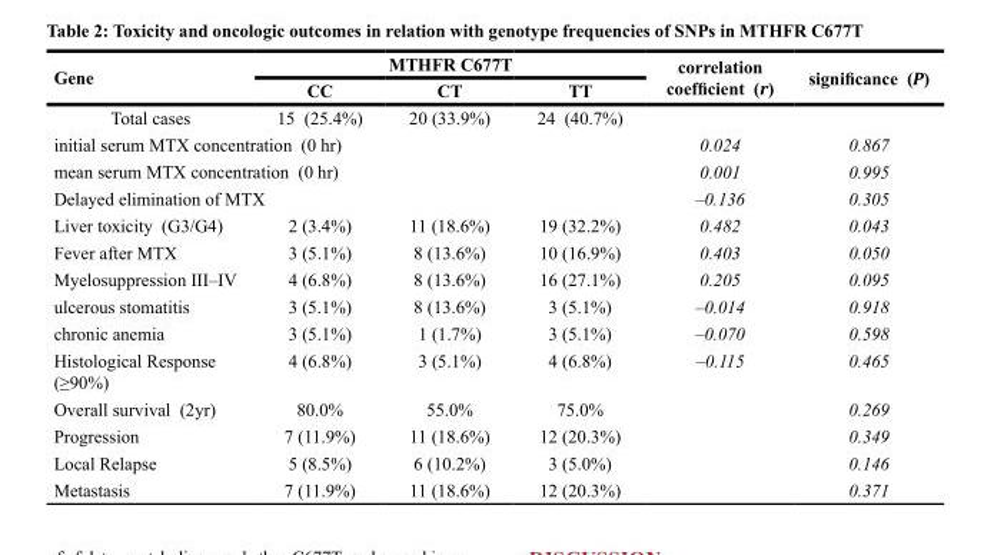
<table><thead><tr><td rowspan="2">Gene</td><td colspan="3">MTHFR C677T</td><td rowspan="2">correlation coefficient (r)</td><td rowspan="2">significance (P)</td></tr><tr><td>CC</td><td>CT</td><td>TT</td></tr></thead><tbody><tr><td>Total cases</td><td>15 (25.4%)</td><td>20 (33.9%)</td><td>24 (40.7%)</td><td></td><td></td></tr><tr><td colspan="4">initial serum MTX concentration (0 hr)</td><td>0.024</td><td>0.867</td></tr><tr><td colspan="4">mean serum MTX concentration (0 hr)</td><td>0.001</td><td>0.995</td></tr><tr><td colspan="4">Delayed elimination of MTX</td><td>–0.136</td><td>0.305</td></tr><tr><td>Liver toxicity (G3/G4)</td><td>2 (3.4%)</td><td>11 (18.6%)</td><td>19 (32.2%)</td><td>0.482</td><td>0.043</td></tr><tr><td>Fever after MTX</td><td>3 (5.1%)</td><td>8 (13.6%)</td><td>10 (16.9%)</td><td>0.403</td><td>0.050</td></tr><tr><td>Myelosuppression III–IV</td><td>4 (6.8%)</td><td>8 (13.6%)</td><td>16 (27.1%)</td><td>0.205</td><td>0.095</td></tr><tr><td>ulcerous stomatitis</td><td>3 (5.1%)</td><td>8 (13.6%)</td><td>3 (5.1%)</td><td>–0.014</td><td>0.918</td></tr><tr><td>chronic anemia</td><td>3 (5.1%)</td><td>1 (1.7%)</td><td>3 (5.1%)</td><td>–0.070</td><td>0.598</td></tr><tr><td>Histological Response (≥90%)</td><td>4 (6.8%)</td><td>3 (5.1%)</td><td>4 (6.8%)</td><td>–0.115</td><td>0.465</td></tr><tr><td>Overall survival (2yr)</td><td>80.0%</td><td>55.0%</td><td>75.0%</td><td></td><td>0.269</td></tr><tr><td>Progression</td><td>7 (11.9%)</td><td>11 (18.6%)</td><td>12 (20.3%)</td><td></td><td>0.349</td></tr><tr><td>Local Relapse</td><td>5 (8.5%)</td><td>6 (10.2%)</td><td>3 (5.0%)</td><td></td><td>0.146</td></tr><tr><td>Metastasis</td><td>7 (11.9%)</td><td>11 (18.6%)</td><td>12 (20.3%)</td><td></td><td>0.371</td></tr></tbody></table>